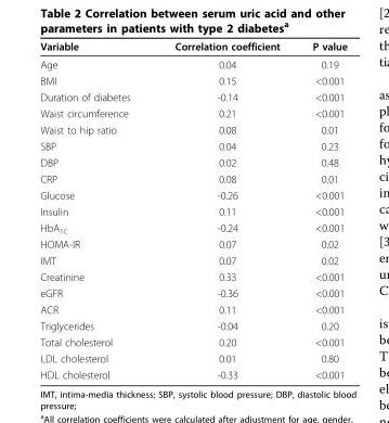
<table><thead><tr><td>Variable</td><td>Correlation coefficient</td><td>P value</td></tr></thead><tbody><tr><td>Age</td><td>0.04</td><td>0.19</td></tr><tr><td>BMI</td><td>0.15</td><td>&lt;0.001</td></tr><tr><td>Duration of diabetes</td><td>-0.14</td><td>&lt;0.001</td></tr><tr><td>Waist circumference</td><td>0.21</td><td>&lt;0.001</td></tr><tr><td>Waist to hip ratio</td><td>0.08</td><td>0.01</td></tr><tr><td>SBP</td><td>0.04</td><td>0.23</td></tr><tr><td>DBP</td><td>0.02</td><td>0.48</td></tr><tr><td>CRP</td><td>0.08</td><td>0.01</td></tr><tr><td>Glucose</td><td>-0.26</td><td>&lt;0.001</td></tr><tr><td>Insulin</td><td>0.11</td><td>&lt;0.001</td></tr><tr><td>HbA<sub>1C</sub></td><td>-0.24</td><td>&lt;0.001</td></tr><tr><td>HOMA-IR</td><td>0.07</td><td>0.02</td></tr><tr><td>IMT</td><td>0.07</td><td>0.02</td></tr><tr><td>Creatinine</td><td>0.33</td><td>&lt;0.001</td></tr><tr><td>eGFR</td><td>-0.36</td><td>&lt;0.001</td></tr><tr><td>ACR</td><td>0.11</td><td>&lt;0.001</td></tr><tr><td>Triglycerides</td><td>-0.04</td><td>0.20</td></tr><tr><td>Total cholesterol</td><td>0.20</td><td>&lt;0.001</td></tr><tr><td>LDL cholesterol</td><td>0.01</td><td>0.80</td></tr><tr><td>HDL cholesterol</td><td>-0.33</td><td>&lt;0.001</td></tr></tbody></table>